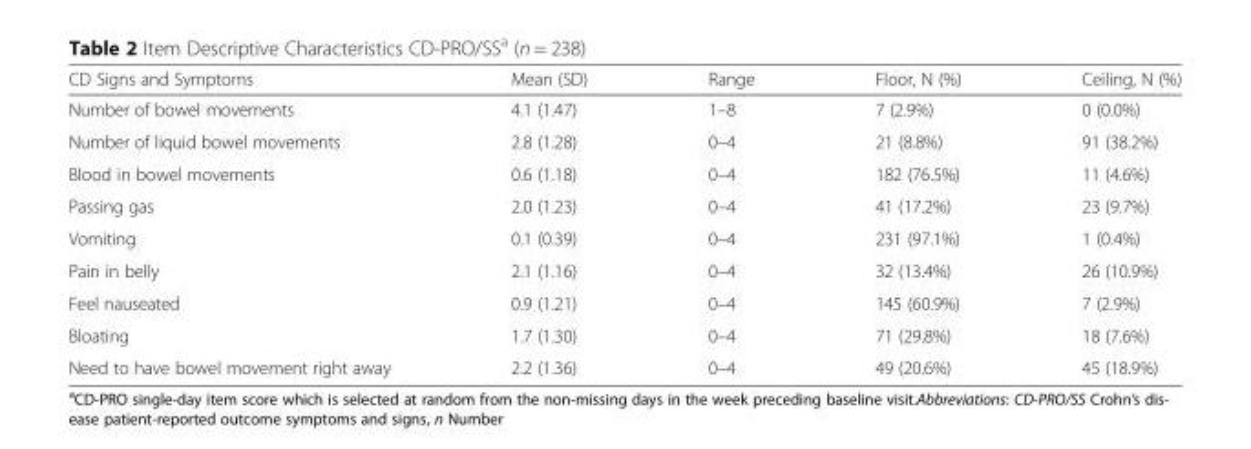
<table><thead><tr><td>CD Signs and Symptoms</td><td>Mean (SD)</td><td>Range</td><td>Floor, N (%)</td><td>Ceiling, N (%)</td></tr></thead><tbody><tr><td>Number of bowel movements</td><td>4.1 (1.47)</td><td>1–8</td><td>7 (2.9%)</td><td>0 (0.0%)</td></tr><tr><td>Number of liquid bowel movements</td><td>2.8 (1.28)</td><td>0–4</td><td>21 (8.8%)</td><td>91 (38.2%)</td></tr><tr><td>Blood in bowel movements</td><td>0.6 (1.18)</td><td>0–4</td><td>182 (76.5%)</td><td>11 (4.6%)</td></tr><tr><td>Passing gas</td><td>2.0 (1.23)</td><td>0–4</td><td>41 (17.2%)</td><td>23 (9.7%)</td></tr><tr><td>Vomiting</td><td>0.1 (0.39)</td><td>0–4</td><td>231 (97.1%)</td><td>1 (0.4%)</td></tr><tr><td>Pain in belly</td><td>2.1 (1.16)</td><td>0–4</td><td>32 (13.4%)</td><td>26 (10.9%)</td></tr><tr><td>Feel nauseated</td><td>0.9 (1.21)</td><td>0–4</td><td>145 (60.9%)</td><td>7 (2.9%)</td></tr><tr><td>Bloating</td><td>1.7 (1.30)</td><td>0–4</td><td>71 (29.8%)</td><td>18 (7.6%)</td></tr><tr><td>Need to have bowel movement right away</td><td>2.2 (1.36)</td><td>0–4</td><td>49 (20.6%)</td><td>45 (18.9%)</td></tr></tbody></table>